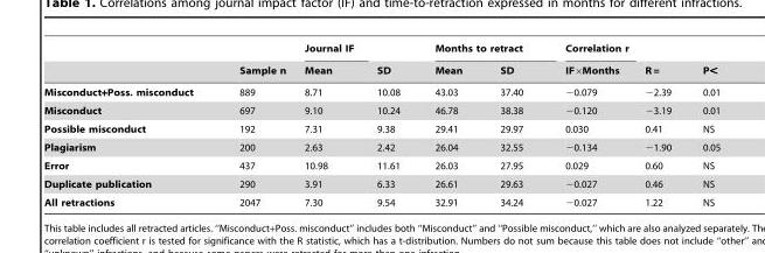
<table><thead><tr><td rowspan="2"></td><td rowspan="2">Sample n</td><td rowspan="2">Journal IF Mean</td><td rowspan="2">SD</td><td colspan="2">Months to retract</td><td rowspan="2">Correlation r IF×Months</td><td rowspan="2">R =</td><td rowspan="2">P&lt;</td></tr><tr><td>Mean</td><td>SD</td></tr></thead><tbody><tr><td>Misconduct+Poss. misconduct</td><td>889</td><td>8.71</td><td>10.08</td><td>43.03</td><td>37.40</td><td>−0.079</td><td>−2.39</td><td>0.01</td></tr><tr><td>Misconduct</td><td>697</td><td>9.10</td><td>10.24</td><td>46.78</td><td>38.38</td><td>−0.120</td><td>−3.19</td><td>0.01</td></tr><tr><td>Possible misconduct</td><td>192</td><td>7.31</td><td>9.38</td><td>29.41</td><td>29.97</td><td>0.030</td><td>0.41</td><td>NS</td></tr><tr><td>Plagiarism</td><td>200</td><td>2.63</td><td>2.42</td><td>26.04</td><td>32.55</td><td>−0.134</td><td>−1.90</td><td>0.05</td></tr><tr><td>Error</td><td>437</td><td>10.98</td><td>11.61</td><td>26.03</td><td>27.95</td><td>0.029</td><td>0.60</td><td>NS</td></tr><tr><td>Duplicate publication</td><td>290</td><td>3.91</td><td>6.33</td><td>26.61</td><td>29.63</td><td>−0.027</td><td>0.46</td><td>NS</td></tr><tr><td>All retractions</td><td>2047</td><td>7.30</td><td>9.54</td><td>32.91</td><td>34.24</td><td>−0.027</td><td>1.22</td><td>NS</td></tr></tbody></table>